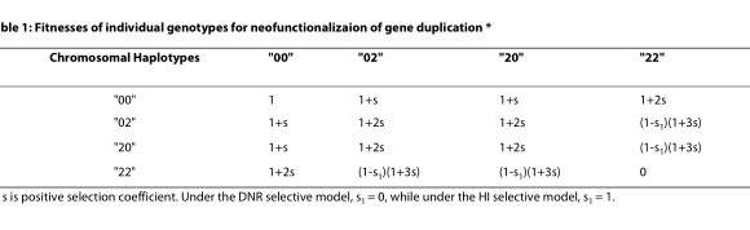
<table><thead><tr><td>Chromosomal Haplotypes</td><td>&quot;00&quot;</td><td>&quot;02&quot;</td><td>&quot;20&quot;</td><td>&quot;22&quot;</td></tr></thead><tbody><tr><td>&quot;00&quot;</td><td>1</td><td>1+s</td><td>1+s</td><td>1+2s</td></tr><tr><td>&quot;02&quot;</td><td>1+s</td><td>1+2s</td><td>1+2s</td><td>(1-s<sub>1</sub>)(1+3s)</td></tr><tr><td>&quot;20&quot;</td><td>1+s</td><td>1+2s</td><td>1+2s</td><td>(1-s<sub>1</sub>)(1+3s)</td></tr><tr><td>&quot;22&quot;</td><td>1+2s</td><td>(1-s<sub>1</sub>)(1+3s)</td><td>(1-s<sub>1</sub>)(1+3s)</td><td>0</td></tr></tbody></table>